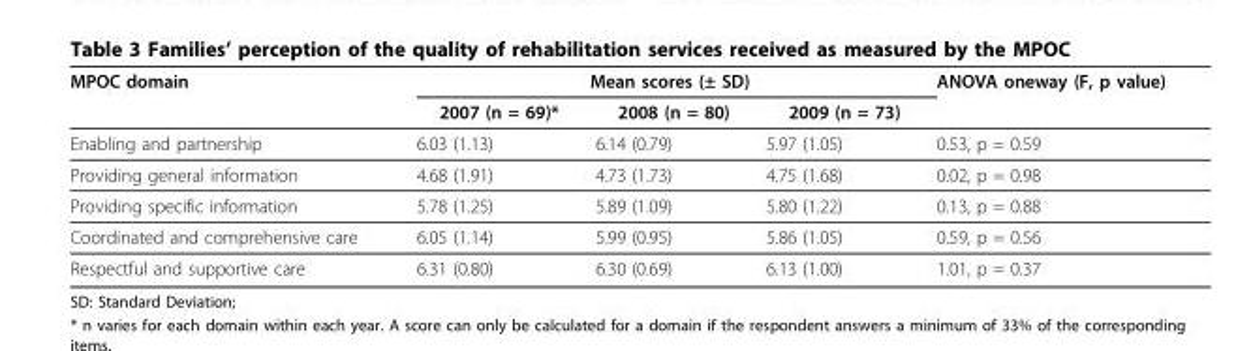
<table><thead><tr><td rowspan="2">MPOC domain</td><td colspan="3">Mean scores (± SD)</td><td rowspan="2">ANOVA oneway (F, p value)</td></tr><tr><td>2007 (n = 69)*</td><td>2008 (n = 80)</td><td>2009 (n = 73)</td></tr></thead><tbody><tr><td>Enabling and partnership</td><td>6.03 (1.13)</td><td>6.14 (0.79)</td><td>5.97 (1.05)</td><td>0.53, p = 0.59</td></tr><tr><td>Providing general information</td><td>4.68 (1.91)</td><td>4.73 (1.73)</td><td>4.75 (1.68)</td><td>0.02, p = 0.98</td></tr><tr><td>Providing specific information</td><td>5.78 (1.25)</td><td>5.89 (1.09)</td><td>5.80 (1.22)</td><td>0.13, p = 0.88</td></tr><tr><td>Coordinated and comprehensive care</td><td>6.05 (1.14)</td><td>5.99 (0.95)</td><td>5.86 (1.05)</td><td>0.59, p = 0.56</td></tr><tr><td>Respectful and supportive care</td><td>6.31 (0.80)</td><td>6.30 (0.69)</td><td>6.13 (1.00)</td><td>1.01, p = 0.37</td></tr></tbody></table>